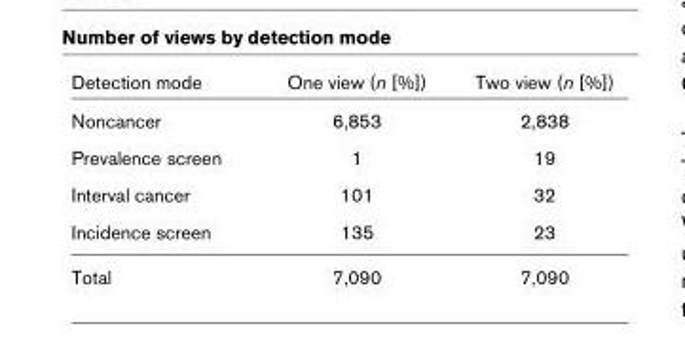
<table><thead><tr><td>Detection mode</td><td>One view (n [%])</td><td>Two view (n [%])</td></tr></thead><tbody><tr><td>Noncancer</td><td>6,853</td><td>2,838</td></tr><tr><td>Prevalence screen</td><td>1</td><td>19</td></tr><tr><td>Interval cancer</td><td>101</td><td>32</td></tr><tr><td>Incidence screen</td><td>135</td><td>23</td></tr><tr><td>Total</td><td>7,090</td><td>7,090</td></tr></tbody></table>